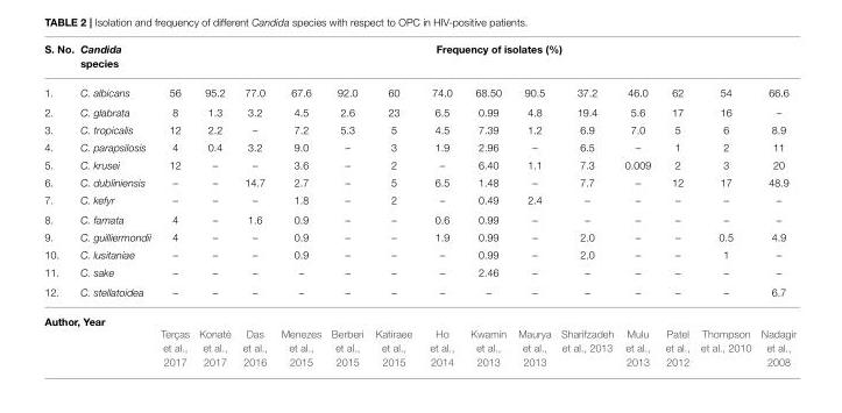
<table><thead><tr><td rowspan="2">S. No. 1.</td><td rowspan="2">Candida species C. albicans</td><td rowspan="2">56</td><td colspan="13">Frequency of isolates (%)</td></tr><tr><td>95.2</td><td>77.0</td><td>67.6</td><td>92.0</td><td>60</td><td>74.0</td><td>68.50</td><td>90.5</td><td>37.2</td><td>46.0</td><td>62</td><td>54</td><td>66.6</td></tr></thead><tbody><tr><td>2.</td><td>C. glabrata</td><td>8</td><td>1.3</td><td>3.2</td><td>4.5</td><td>2.6</td><td>23</td><td>6.5</td><td>0.99</td><td>4.8</td><td>19.4</td><td>5.6</td><td>17</td><td>16</td><td>–</td></tr><tr><td>3.</td><td>C. tropicalis</td><td>12</td><td>2.2</td><td>–</td><td>7.2</td><td>5.3</td><td>5</td><td>4.5</td><td>7.39</td><td>1.2</td><td>6.9</td><td>7.0</td><td>5</td><td>6</td><td>8.9</td></tr><tr><td>4.</td><td>C. parapsilosis</td><td>4</td><td>0.4</td><td>3.2</td><td>9.0</td><td>–</td><td>3</td><td>1.9</td><td>2.96</td><td>–</td><td>6.5</td><td>–</td><td>1</td><td>2</td><td>11</td></tr><tr><td>5.</td><td>C. krusei</td><td>12</td><td>–</td><td>–</td><td>3.6</td><td>–</td><td>2</td><td>–</td><td>6.40</td><td>1.1</td><td>7.3</td><td>0.009</td><td>2</td><td>3</td><td>20</td></tr><tr><td>6.</td><td>C. dubliniensis</td><td>–</td><td>–</td><td>14.7</td><td>2.7</td><td>–</td><td>5</td><td>6.5</td><td>1.48</td><td>–</td><td>7.7</td><td>–</td><td>12</td><td>17</td><td>48.9</td></tr><tr><td>7.</td><td>C. kefyr</td><td>–</td><td>–</td><td>–</td><td>1.8</td><td>–</td><td>2</td><td>–</td><td>0.49</td><td>2.4</td><td>–</td><td>–</td><td>–</td><td>–</td><td>–</td></tr><tr><td>8.</td><td>C. famata</td><td>4</td><td>–</td><td>1.6</td><td>0.9</td><td>–</td><td>–</td><td>0.6</td><td>0.99</td><td>–</td><td>–</td><td>–</td><td>–</td><td>–</td><td>–</td></tr><tr><td>9.</td><td>C. guilliermondii</td><td>4</td><td>–</td><td>–</td><td>0.9</td><td>–</td><td>–</td><td>1.9</td><td>0.99</td><td>–</td><td>2.0</td><td>–</td><td>–</td><td>0.5</td><td>4.9</td></tr><tr><td>10.</td><td>C. lusitaniae</td><td>–</td><td>–</td><td>–</td><td>0.9</td><td>–</td><td>–</td><td>–</td><td>0.99</td><td>–</td><td>2.0</td><td>–</td><td>–</td><td>1</td><td>–</td></tr><tr><td>11.</td><td>C. sake</td><td>–</td><td>–</td><td>–</td><td>–</td><td>–</td><td>–</td><td>–</td><td>2.46</td><td>–</td><td>–</td><td>–</td><td>–</td><td>–</td><td>–</td></tr><tr><td>12.</td><td>C. stellatoidea</td><td>–</td><td>–</td><td>–</td><td>–</td><td>–</td><td>–</td><td>–</td><td>–</td><td>–</td><td>–</td><td>–</td><td>–</td><td>–</td><td>6.7</td></tr><tr><td colspan="2">Author, Year</td><td>Terças et al., 2017</td><td>Konaté et al., 2017</td><td>Das et al., 2016</td><td>Menezes et al., 2015</td><td>Berberi et al., 2015</td><td>Katiraee et al., 2015</td><td>Ho et al., 2014</td><td>Kwamin et al., 2013</td><td>Maurya et al., 2013</td><td>Sharifzadeh et al., 2013</td><td>Mulu et al., 2013</td><td>Patel et al., 2012</td><td>Thompson et al., 2010</td><td>Nadagir et al., 2008</td></tr></tbody></table>